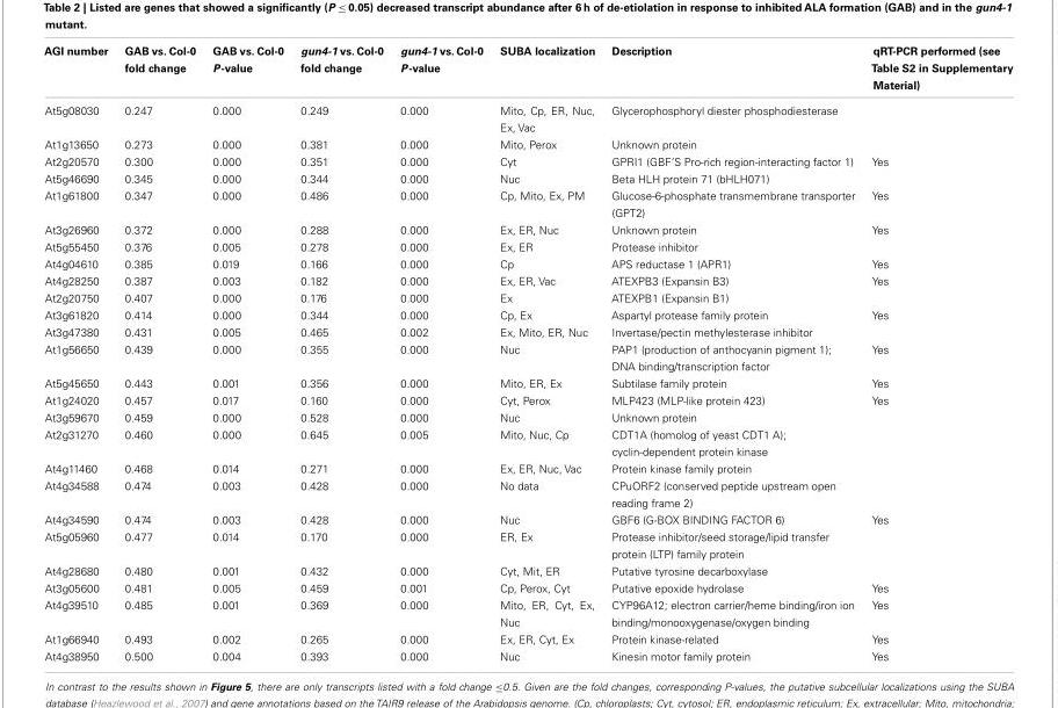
<table><thead><tr><td>AGI number</td><td>GAB vs. Col-0 fold change</td><td>GAB vs. Col-0 P-value</td><td>gun4-1 vs. Col-0 fold change</td><td>gun4-1 vs. Col-0 P-value</td><td>SUBA localization</td><td>Description</td><td>qRT-PCR performed (see Table S2 in Supplementary Material)</td></tr></thead><tbody><tr><td>At5g08030</td><td>0.247</td><td>0.000</td><td>0.249</td><td>0.000</td><td>Mito, Cp, ER, Nuc, Ex, Vac</td><td>Glycerophosphoryl diester phosphodiesterase</td><td></td></tr><tr><td>At1g13650</td><td>0.273</td><td>0.000</td><td>0.381</td><td>0.000</td><td>Mito, Perox</td><td>Unknown protein</td><td></td></tr><tr><td>At2g20570</td><td>0.300</td><td>0.000</td><td>0.351</td><td>0.000</td><td>Cyt</td><td>GPRI1 (GBF’S Pro-rich region-interacting factor 1)</td><td>Yes</td></tr><tr><td>At5g46690</td><td>0.345</td><td>0.000</td><td>0.344</td><td>0.000</td><td>Nuc</td><td>Beta HLH protein 71 (bHLH071)</td><td></td></tr><tr><td>At1g61800</td><td>0.347</td><td>0.000</td><td>0.486</td><td>0.000</td><td>Cp, Mito, Ex, PM</td><td>Glucose-6-phosphate transmembrane transporter (GPT2)</td><td>Yes</td></tr><tr><td>At3g26960</td><td>0.372</td><td>0.000</td><td>0.288</td><td>0.000</td><td>Ex, ER, Nuc</td><td>Unknown protein</td><td>Yes</td></tr><tr><td>At5g55450</td><td>0.376</td><td>0.005</td><td>0.278</td><td>0.000</td><td>Ex, ER</td><td>Protease inhibitor</td><td></td></tr><tr><td>At4g04610</td><td>0.385</td><td>0.019</td><td>0.166</td><td>0.000</td><td>Cp</td><td>APS reductase 1 (APR1)</td><td>Yes</td></tr><tr><td>At4g28250</td><td>0.387</td><td>0.003</td><td>0.182</td><td>0.000</td><td>Ex, ER, Vac</td><td>ATEXPB3 (Expansin B3)</td><td>Yes</td></tr><tr><td>At2g20750</td><td>0.407</td><td>0.000</td><td>0.176</td><td>0.000</td><td>Ex</td><td>ATEXPB1 (Expansin B1)</td><td></td></tr><tr><td>At3g61820</td><td>0.414</td><td>0.000</td><td>0.344</td><td>0.000</td><td>Cp, Ex</td><td>Aspartyl protease family protein</td><td>Yes</td></tr><tr><td>At3g47380</td><td>0.431</td><td>0.005</td><td>0.465</td><td>0.002</td><td>Ex, Mito, ER, Nuc</td><td>Invertase/pectin methylesterase inhibitor</td><td></td></tr><tr><td>At1g56650</td><td>0.439</td><td>0.000</td><td>0.355</td><td>0.000</td><td>Nuc</td><td>PAP1 (production of anthocyanin pigment 1); DNA binding/transcription factor</td><td>Yes</td></tr><tr><td>At5g45650</td><td>0.443</td><td>0.001</td><td>0.356</td><td>0.000</td><td>Mito, ER, Ex</td><td>Subtilase family protein</td><td>Yes</td></tr><tr><td>At1g24020</td><td>0.457</td><td>0.017</td><td>0.160</td><td>0.000</td><td>Cyt, Perox</td><td>MLP423 (MLP-like protein 423)</td><td>Yes</td></tr><tr><td>At3g59670</td><td>0.459</td><td>0.000</td><td>0.528</td><td>0.000</td><td>Nuc</td><td>Unknown protein</td><td></td></tr><tr><td>At2g31270</td><td>0.460</td><td>0.000</td><td>0.645</td><td>0.005</td><td>Mito, Nuc, Cp</td><td>CDT1A (homolog of yeast CDT1 A); cyclin-dependent protein kinase</td><td></td></tr><tr><td>At4g11460</td><td>0.468</td><td>0.014</td><td>0.271</td><td>0.000</td><td>Ex, ER, Nuc, Vac</td><td>Protein kinase family protein</td><td></td></tr><tr><td>At4g34588</td><td>0.474</td><td>0.003</td><td>0.428</td><td>0.000</td><td>No data</td><td>CPuORF2 (conserved peptide upstream open reading frame 2)</td><td></td></tr><tr><td>At4g34590</td><td>0.474</td><td>0.003</td><td>0.428</td><td>0.000</td><td>Nuc</td><td>GBF6 (G-BOX BINDING FACTOR 6)</td><td>Yes</td></tr><tr><td>At5g05960</td><td>0.477</td><td>0.014</td><td>0.170</td><td>0.000</td><td>ER, Ex</td><td>Protease inhibitor/seed storage/lipid transfer protein (LTP) family protein</td><td></td></tr><tr><td>At4g28680</td><td>0.480</td><td>0.001</td><td>0.432</td><td>0.000</td><td>Cyt, Mit, ER</td><td>Putative tyrosine decarboxylase</td><td></td></tr><tr><td>At3g05600</td><td>0.481</td><td>0.005</td><td>0.459</td><td>0.001</td><td>Cp, Perox, Cyt</td><td>Putative epoxide hydrolase</td><td>Yes</td></tr><tr><td>At4g39510</td><td>0.485</td><td>0.001</td><td>0.369</td><td>0.000</td><td>Mito, ER, Cyt, Ex, Nuc</td><td>CYP96A12; electron carrier/heme binding/iron ion binding/monooxygenase/oxygen binding</td><td>Yes</td></tr><tr><td>At1g66940</td><td>0.493</td><td>0.002</td><td>0.265</td><td>0.000</td><td>Ex, ER, Cyt, Ex</td><td>Protein kinase-related</td><td>Yes</td></tr><tr><td>At4g38950</td><td>0.500</td><td>0.004</td><td>0.393</td><td>0.000</td><td>Nuc</td><td>Kinesin motor family protein</td><td>Yes</td></tr></tbody></table>